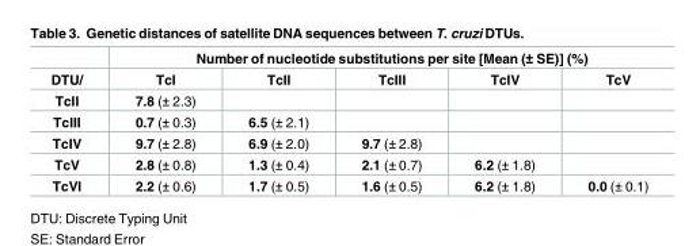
<table><thead><tr><td rowspan="2">DTU/</td><td colspan="5">Number of nucleotide substitutions per site [Mean (± SE)] (%)</td></tr><tr><td>TcI</td><td>TcII</td><td>TcIII</td><td>TcIV</td><td>TcV</td></tr></thead><tbody><tr><td>TcII</td><td>7.8 (± 2.3)</td><td></td><td></td><td></td><td></td></tr><tr><td>TcIII</td><td>0.7 (± 0.3)</td><td>6.5 (± 2.1)</td><td></td><td></td><td></td></tr><tr><td>TcIV</td><td>9.7 (± 2.8)</td><td>6.9 (± 2.0)</td><td>9.7 (± 2.8)</td><td></td><td></td></tr><tr><td>TcV</td><td>2.8 (± 0.8)</td><td>1.3 (± 0.4)</td><td>2.1 (± 0.7)</td><td>6.2 (± 1.8)</td><td></td></tr><tr><td>TcVI</td><td>2.2 (± 0.6)</td><td>1.7 (± 0.5)</td><td>1.6 (± 0.5)</td><td>6.2 (± 1.8)</td><td>0.0 (± 0.1)</td></tr></tbody></table>